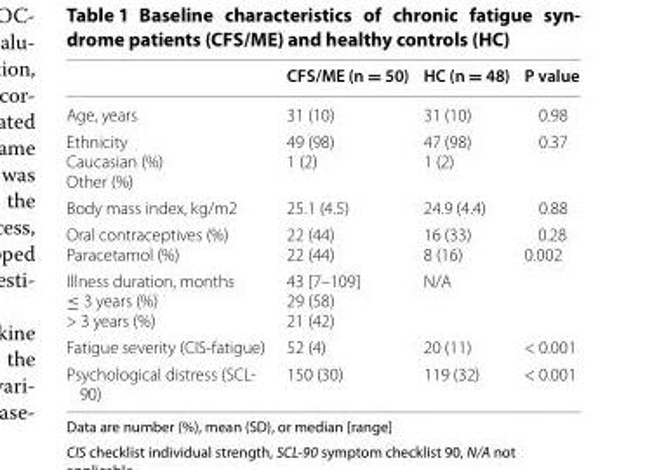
<table><thead><tr><td></td><td>CFS/ME (n = 50)</td><td>HC (n = 48)</td><td>P value</td></tr></thead><tbody><tr><td>Age, years</td><td>31 (10)</td><td>31 (10)</td><td>0.98</td></tr><tr><td>Ethnicity Caucasian (%) Other (%)</td><td>49 (98) 1 (2)</td><td>47 (98) 1 (2)</td><td>0.37</td></tr><tr><td>Body mass index, kg/m2</td><td>25.1 (4.5)</td><td>24.9 (4.4)</td><td>0.88</td></tr><tr><td>Oral contraceptives (%) Paracetamol (%)</td><td>22 (44) 22 (44)</td><td>16 (33) 8 (16)</td><td>0.28 0.002</td></tr><tr><td>Illness duration, months ≤ 3 years (%) &gt; 3 years (%)</td><td>43 [7–109] 29 (58) 21 (42)</td><td>N/A</td><td></td></tr><tr><td>Fatigue severity (CIS-fatigue)</td><td>52 (4)</td><td>20 (11)</td><td>&lt; 0.001</td></tr><tr><td>Psychological distress (SCL- 90)</td><td>150 (30)</td><td>119 (32)</td><td>&lt; 0.001</td></tr></tbody></table>